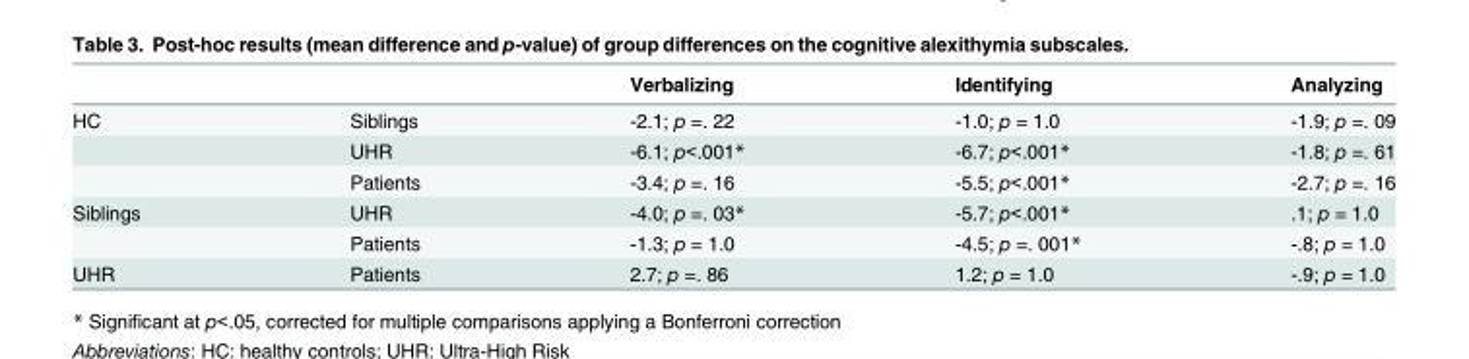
<table><thead><tr><td></td><td></td><td>Verbalizing</td><td>Identifying</td><td>Analyzing</td></tr></thead><tbody><tr><td rowspan="3">HC</td><td>Siblings</td><td>-2.1; p =. 22</td><td>-1.0; p = 1.0</td><td>-1.9; p =. 09</td></tr><tr><td>UHR</td><td>-6.1; p&lt;.001*</td><td>-6.7; p&lt;.001*</td><td>-1.8; p =. 61</td></tr><tr><td>Patients</td><td>-3.4; p =. 16</td><td>-5.5; p&lt;.001*</td><td>-2.7; p =. 16</td></tr><tr><td rowspan="2">Siblings</td><td>UHR</td><td>-4.0; p =. 03*</td><td>-5.7; p&lt;.001*</td><td>.1; p = 1.0</td></tr><tr><td>Patients</td><td>-1.3; p = 1.0</td><td>-4.5; p =. 001*</td><td>-.8; p = 1.0</td></tr><tr><td>UHR</td><td>Patients</td><td>2.7; p =. 86</td><td>1.2; p = 1.0</td><td>-.9; p = 1.0</td></tr></tbody></table>